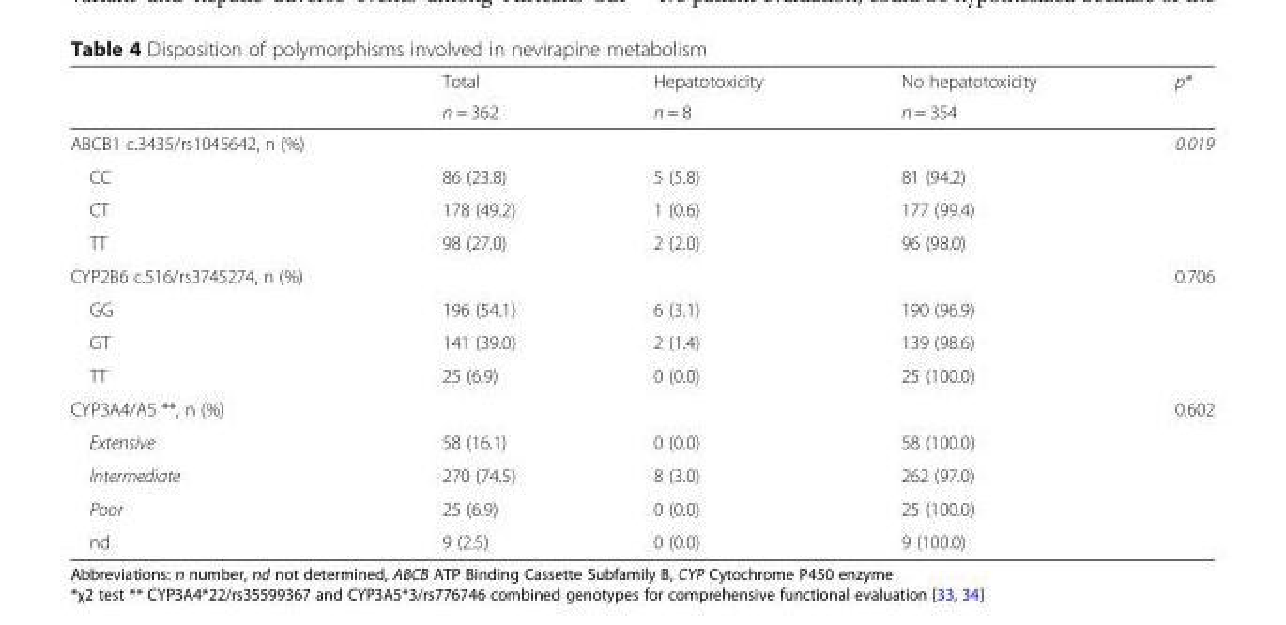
<table><thead><tr><td rowspan="2"></td><td rowspan="2">Total n = 362</td><td rowspan="2">Hepatotoxicity n = 8</td><td rowspan="2">No hepatotoxicity n = 354</td><td rowspan="2">p*</td></tr><tr></tr></thead><tbody><tr><td>ABCB1 c.3435/rs1045642, n (%)</td><td></td><td></td><td></td><td>0.019</td></tr><tr><td>CC</td><td>86 (23.8)</td><td>5 (5.8)</td><td>81 (94.2)</td><td></td></tr><tr><td>CT</td><td>178 (49.2)</td><td>1 (0.6)</td><td>177 (99.4)</td><td></td></tr><tr><td>TT</td><td>98 (27.0)</td><td>2 (2.0)</td><td>96 (98.0)</td><td></td></tr><tr><td>CYP2B6 c.516/rs3745274, n (%)</td><td></td><td></td><td></td><td>0.706</td></tr><tr><td>GG</td><td>196 (54.1)</td><td>6 (3.1)</td><td>190 (96.9)</td><td></td></tr><tr><td>GT</td><td>141 (39.0)</td><td>2 (1.4)</td><td>139 (98.6)</td><td></td></tr><tr><td>TT</td><td>25 (6.9)</td><td>0 (0.0)</td><td>25 (100.0)</td><td></td></tr><tr><td>CYP3A4/A5 **, n (%)</td><td></td><td></td><td></td><td>0.602</td></tr><tr><td>Extensive</td><td>58 (16.1)</td><td>0 (0.0)</td><td>58 (100.0)</td><td></td></tr><tr><td>Intermediate</td><td>270 (74.5)</td><td>8 (3.0)</td><td>262 (97.0)</td><td></td></tr><tr><td>Poor</td><td>25 (6.9)</td><td>0 (0.0)</td><td>25 (100.0)</td><td></td></tr><tr><td>nd</td><td>9 (2.5)</td><td>0 (0.0)</td><td>9 (100.0)</td><td></td></tr></tbody></table>